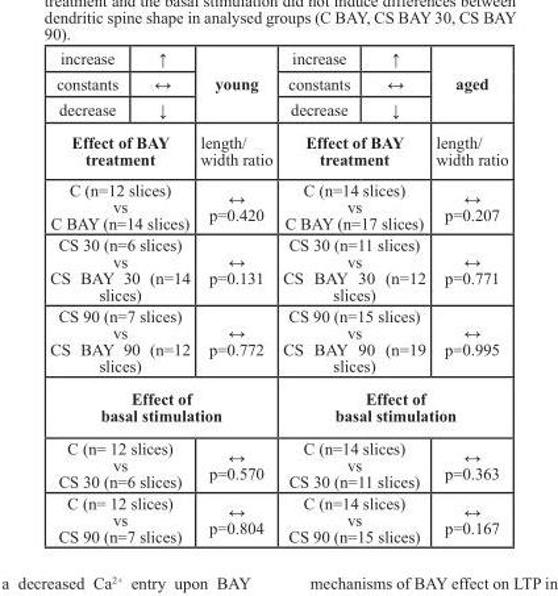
<table><tbody><tr><td>increase</td><td>↑</td><td rowspan="3">young</td><td>increase</td><td>↑</td><td rowspan="3">aged</td></tr><tr><td>constants</td><td>↔</td><td>constants</td><td>↔</td></tr><tr><td>decrease</td><td>↓</td><td>decrease</td><td>↓</td></tr><tr><td colspan="2">Effect of BAY treatment</td><td>length/ width ratio</td><td colspan="2">Effect of BAY treatment</td><td>length/ width ratio</td></tr><tr><td colspan="2">C (n=12 slices) vs C BAY (n=14 slices)</td><td>↔ p=0.420</td><td colspan="2">C (n=14 slices) vs C BAY (n=17 slices)</td><td>↔ p=0.207</td></tr><tr><td colspan="2">CS 30 (n=6 slices) vs CS BAY 30 (n=14 slices)</td><td>↔ p=0.131</td><td colspan="2">CS 30 (n=11 slices) vs CS BAY 30 (n=12 slices)</td><td>↔ p=0.771</td></tr><tr><td colspan="2">CS 90 (n=7 slices) vs CS BAY 90 (n=12 slices)</td><td>↔ p=0.772</td><td colspan="2">CS 90 (n=15 slices) vs CS BAY 90 (n=19 slices)</td><td>↔ p=0.995</td></tr><tr><td colspan="3">Effect of basal stimulation</td><td colspan="3">Effect of basal stimulation</td></tr><tr><td colspan="2">C (n= 12 slices) vs CS 30 (n=6 slices)</td><td>↔ p=0.570</td><td colspan="2">C (n=14 slices) vs CS 30 (n=11 slices)</td><td>↔ p=0.363</td></tr><tr><td colspan="2">C (n= 12 slices) vs CS 90 (n=7 slices)</td><td>↔ p=0.804</td><td colspan="2">C (n=14 slices) vs CS 90 (n=15 slices)</td><td>↔ p=0.167</td></tr></tbody></table>